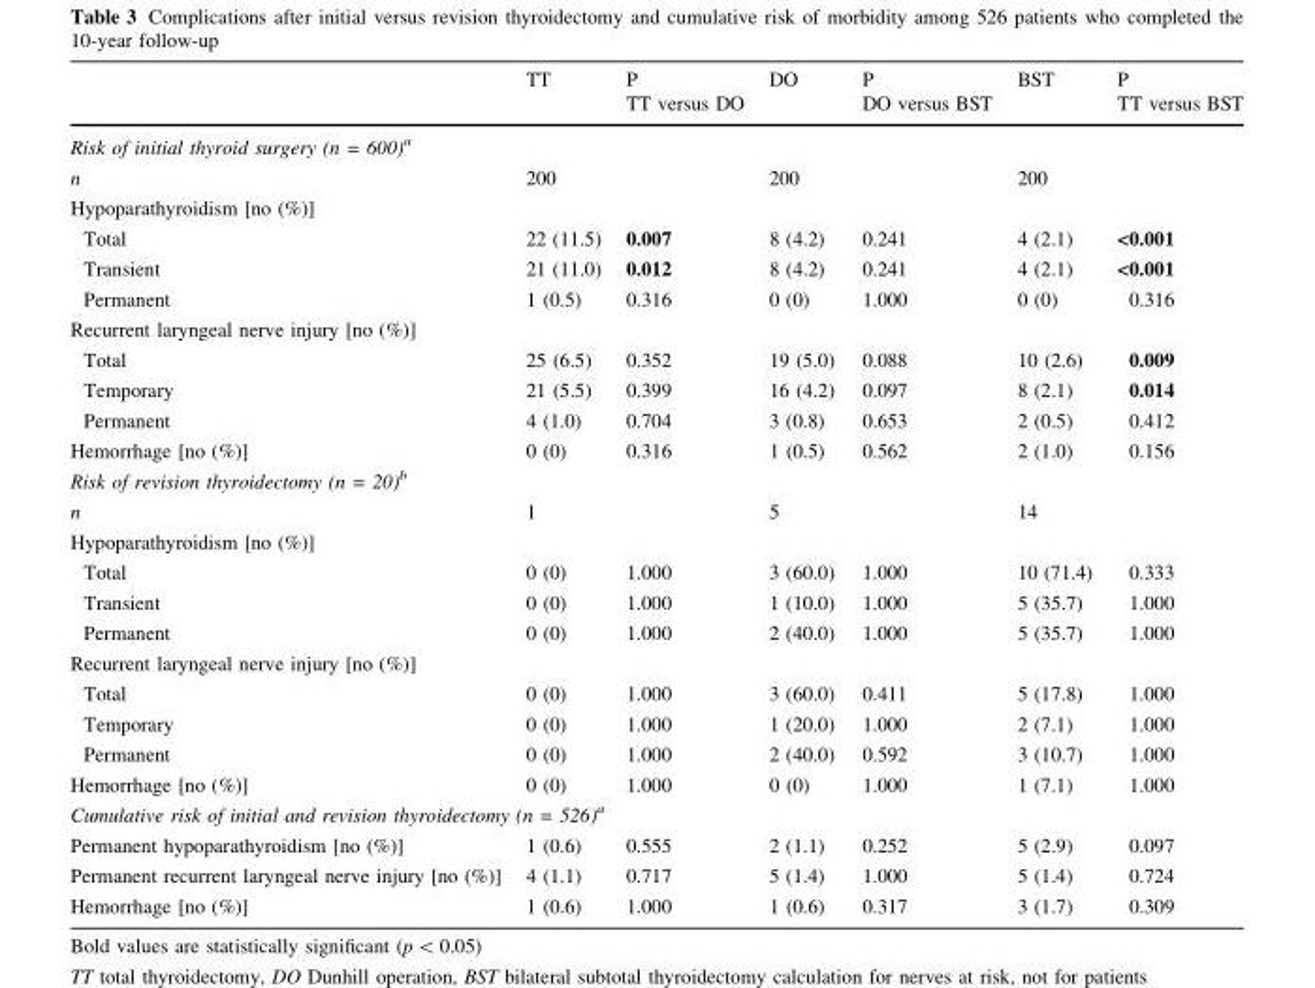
<table><thead><tr><td></td><td>TT</td><td>P TT versus DO</td><td>DO</td><td>P DO versus BST</td><td>BST</td><td>P TT versus BST</td></tr></thead><tbody><tr><td colspan="7">Risk of initial thyroid surgery (n = 600)<sup>a</sup></td></tr><tr><td>n</td><td>200</td><td></td><td>200</td><td></td><td>200</td><td></td></tr><tr><td colspan="7">Hypoparathyroidism [no (%)]</td></tr><tr><td>Total</td><td>22 (11.5)</td><td>0.007</td><td>8 (4.2)</td><td>0.241</td><td>4 (2.1)</td><td>&lt;0.001</td></tr><tr><td>Transient</td><td>21 (11.0)</td><td>0.012</td><td>8 (4.2)</td><td>0.241</td><td>4 (2.1)</td><td>&lt;0.001</td></tr><tr><td>Permanent</td><td>1 (0.5)</td><td>0.316</td><td>0 (0)</td><td>1.000</td><td>0 (0)</td><td>0.316</td></tr><tr><td colspan="7">Recurrent laryngeal nerve injury [no (%)]</td></tr><tr><td>Total</td><td>25 (6.5)</td><td>0.352</td><td>19 (5.0)</td><td>0.088</td><td>10 (2.6)</td><td>0.009</td></tr><tr><td>Temporary</td><td>21 (5.5)</td><td>0.399</td><td>16 (4.2)</td><td>0.097</td><td>8 (2.1)</td><td>0.014</td></tr><tr><td>Permanent</td><td>4 (1.0)</td><td>0.704</td><td>3 (0.8)</td><td>0.653</td><td>2 (0.5)</td><td>0.412</td></tr><tr><td>Hemorrhage [no (%)]</td><td>0 (0)</td><td>0.316</td><td>1 (0.5)</td><td>0.562</td><td>2 (1.0)</td><td>0.156</td></tr><tr><td colspan="7">Risk of revision thyroidectomy (n = 20)<sup>b</sup></td></tr><tr><td>n</td><td>1</td><td></td><td>5</td><td></td><td>14</td><td></td></tr><tr><td colspan="7">Hypoparathyroidism [no (%)]</td></tr><tr><td>Total</td><td>0 (0)</td><td>1.000</td><td>3 (60.0)</td><td>1.000</td><td>10 (71.4)</td><td>0.333</td></tr><tr><td>Transient</td><td>0 (0)</td><td>1.000</td><td>1 (10.0)</td><td>1.000</td><td>5 (35.7)</td><td>1.000</td></tr><tr><td>Permanent</td><td>0 (0)</td><td>1.000</td><td>2 (40.0)</td><td>1.000</td><td>5 (35.7)</td><td>1.000</td></tr><tr><td colspan="7">Recurrent laryngeal nerve injury [no (%)]</td></tr><tr><td>Total</td><td>0 (0)</td><td>1.000</td><td>3 (60.0)</td><td>0.411</td><td>5 (17.8)</td><td>1.000</td></tr><tr><td>Temporary</td><td>0 (0)</td><td>1.000</td><td>1 (20.0)</td><td>1.000</td><td>2 (7.1)</td><td>1.000</td></tr><tr><td>Permanent</td><td>0 (0)</td><td>1.000</td><td>2 (40.0)</td><td>0.592</td><td>3 (10.7)</td><td>1.000</td></tr><tr><td>Hemorrhage [no (%)]</td><td>0 (0)</td><td>1.000</td><td>0 (0)</td><td>1.000</td><td>1 (7.1)</td><td>1.000</td></tr><tr><td colspan="7">Cumulative risk of initial and revision thyroidectomy (n = 526)<sup>a</sup></td></tr><tr><td>Permanent hypoparathyroidism [no (%)]</td><td>1 (0.6)</td><td>0.555</td><td>2 (1.1)</td><td>0.252</td><td>5 (2.9)</td><td>0.097</td></tr><tr><td>Permanent recurrent laryngeal nerve injury [no (%)]</td><td>4 (1.1)</td><td>0.717</td><td>5 (1.4)</td><td>1.000</td><td>5 (1.4)</td><td>0.724</td></tr><tr><td>Hemorrhage [no (%)]</td><td>1 (0.6)</td><td>1.000</td><td>1 (0.6)</td><td>0.317</td><td>3 (1.7)</td><td>0.309</td></tr></tbody></table>